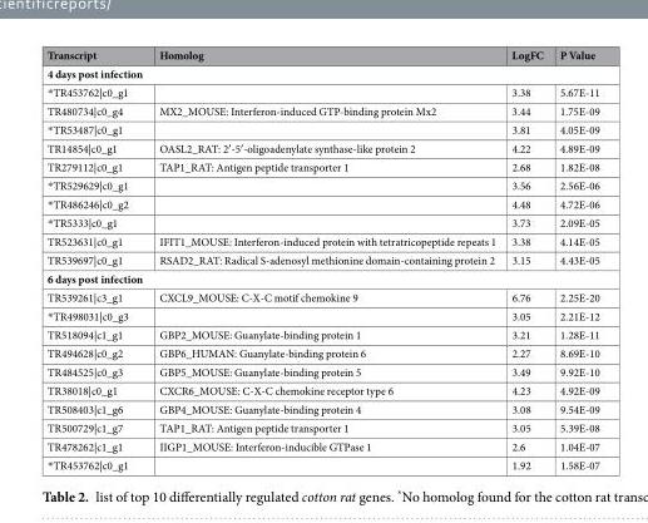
<table><thead><tr><td>Transcript</td><td>Homolog</td><td>LogFC</td><td>P Value</td></tr></thead><tbody><tr><td colspan="4">4 days post infection</td></tr><tr><td>*TR453762|c0_g1</td><td></td><td>3.38</td><td>5.67E-11</td></tr><tr><td>TR480734|c0_g4</td><td>MX2_MOUSE: Interferon-induced GTP-binding protein Mx2</td><td>3.44</td><td>1.75E-09</td></tr><tr><td>*TR53487|c0_g1</td><td></td><td>3.81</td><td>4.05E-09</td></tr><tr><td>TR14854|c0_g1</td><td>OASL2_RAT: 2′-5′-oligoadenylate synthase-like protein 2</td><td>4.22</td><td>4.89E-09</td></tr><tr><td>TR279112|c0_g1</td><td>TAP1_RAT: Antigen peptide transporter 1</td><td>2.68</td><td>1.82E-08</td></tr><tr><td>*TR529629|c0_g1</td><td></td><td>3.56</td><td>2.56E-06</td></tr><tr><td>*TR486246|c0_g2</td><td></td><td>4.48</td><td>4.72E-06</td></tr><tr><td>*TR5333|c0_g1</td><td></td><td>3.73</td><td>2.09E-05</td></tr><tr><td>TR523631|c0_g1</td><td>IFIT1_MOUSE: Interferon-induced protein with tetratricopeptide repeats 1</td><td>3.38</td><td>4.14E-05</td></tr><tr><td>TR539697|c0_g1</td><td>RSAD2_RAT: Radical S-adenosyl methionine domain-containing protein 2</td><td>3.15</td><td>4.43E-05</td></tr><tr><td colspan="4">6 days post infection</td></tr><tr><td>TR539261|c3_g1</td><td>CXCL9_MOUSE: C-X-C motif chemokine 9</td><td>6.76</td><td>2.25E-20</td></tr><tr><td>*TR498031|c0_g3</td><td></td><td>3.05</td><td>2.21E-12</td></tr><tr><td>TR518094|c1_g1</td><td>GBP2_MOUSE: Guanylate-binding protein 1</td><td>3.21</td><td>1.28E-11</td></tr><tr><td>TR494628|c0_g2</td><td>GBP6_HUMAN: Guanylate-binding protein 6</td><td>2.27</td><td>8.69E-10</td></tr><tr><td>TR484525|c0_g3</td><td>GBP5_MOUSE: Guanylate-binding protein 5</td><td>3.49</td><td>9.92E-10</td></tr><tr><td>TR38018|c0_g1</td><td>CXCR6_MOUSE: C-X-C chemokine receptor type 6</td><td>4.23</td><td>4.92E-09</td></tr><tr><td>TR508403|c1_g6</td><td>GBP4_MOUSE: Guanylate-binding protein 4</td><td>3.08</td><td>9.54E-09</td></tr><tr><td>TR500729|c1_g7</td><td>TAP1_RAT: Antigen peptide transporter 1</td><td>3.05</td><td>5.39E-08</td></tr><tr><td>TR478262|c1_g1</td><td>IIGP1_MOUSE: Interferon-inducible GTPase 1</td><td>2.6</td><td>1.04E-07</td></tr><tr><td>*TR453762|c0_g1</td><td></td><td>1.92</td><td>1.58E-07</td></tr></tbody></table>